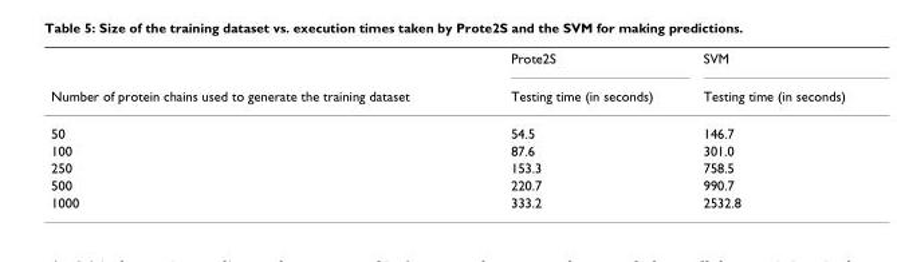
<table><thead><tr><td rowspan="2">Number of protein chains used to generate the training dataset</td><td rowspan="2">Prote2S Testing time (in seconds)</td><td rowspan="2">SVM Testing time (in seconds)</td></tr><tr></tr></thead><tbody><tr><td>50</td><td>54.5</td><td>146.7</td></tr><tr><td>100</td><td>87.6</td><td>301.0</td></tr><tr><td>250</td><td>153.3</td><td>758.5</td></tr><tr><td>500</td><td>220.7</td><td>990.7</td></tr><tr><td>1000</td><td>333.2</td><td>2532.8</td></tr></tbody></table>